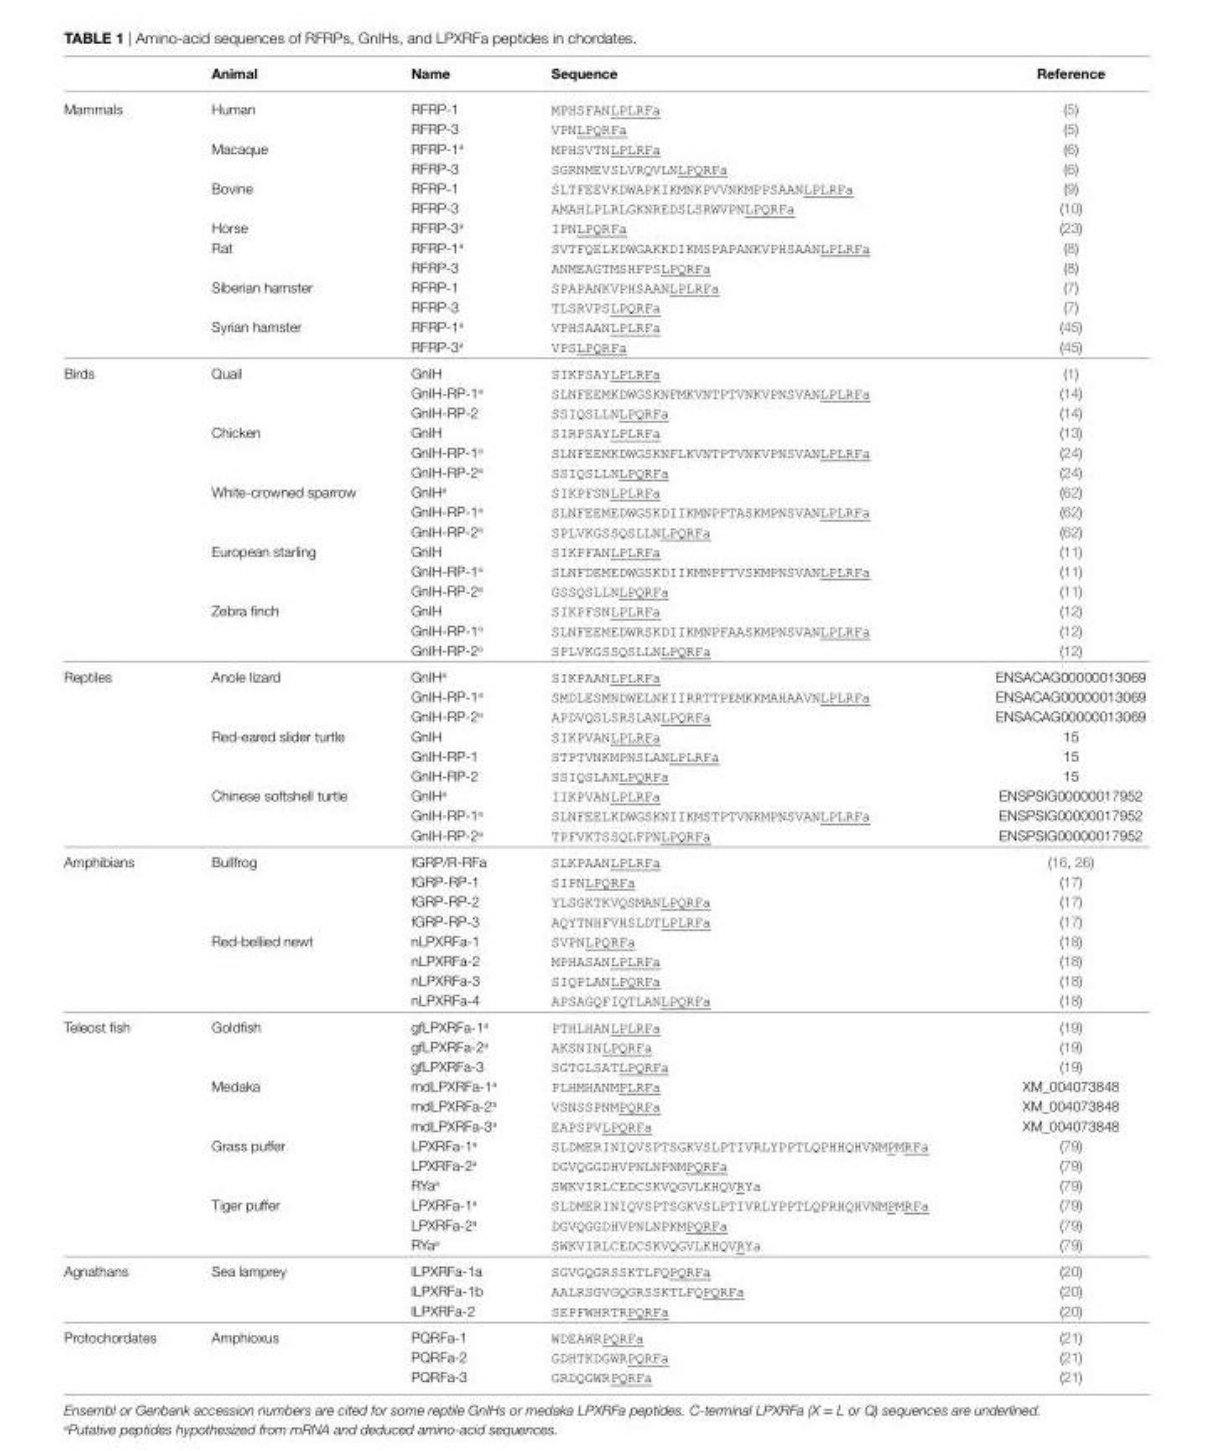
<table><thead><tr><td></td><td>Animal</td><td>Name</td><td>sequence</td><td>reference</td></tr></thead><tbody><tr><td rowspan="13">Mammals</td><td>Human</td><td>RFRP-1</td><td>MPHSFANLPLRFa</td><td>(5)</td></tr><tr><td></td><td>RFRP-3</td><td>VPNLPQRFa</td><td>(5)</td></tr><tr><td>Macaque</td><td>RFRP-1<sup>a</sup></td><td>MPHSVTNLPLRFa</td><td>(6)</td></tr><tr><td></td><td>RFRP-3</td><td>SGRNMEVSLVRQVLNLPQRFa</td><td>(6)</td></tr><tr><td>Bovine</td><td>RFRP-1</td><td>SLTFEEVKDWAPKIKMNKPVVNKMPPSAANLPLRFa</td><td>(9)</td></tr><tr><td></td><td>RFRP-3</td><td>AMAHLPLRLGKNREDSLSRWVPNLPQRFa</td><td>(10)</td></tr><tr><td>Horse</td><td>RFRP-3<sup>a</sup></td><td>IPNLPQRFa</td><td>(23)</td></tr><tr><td>Rat</td><td>RFRP-1<sup>a</sup></td><td>SVTFQELKDWGAKKDIKMSPAPANKVPHSAANLPLRFa</td><td>(8)</td></tr><tr><td></td><td>RFRP-3</td><td>ANMEAGTMSHFPSLPQRFa</td><td>(8)</td></tr><tr><td rowspan="2">Siberian hamster</td><td>RFRP-1</td><td>SPAPANKVPHSAANLPLRFa</td><td>(7)</td></tr><tr><td>RFRP-3</td><td>TLSRVPSLPQRFa</td><td>(7)</td></tr><tr><td rowspan="2">Syrian hamster</td><td>RFRP-1<sup>a</sup></td><td>VPHSAANLPLRFa</td><td>(45)</td></tr><tr><td>RFRP-3<sup>a</sup></td><td>VPSLPQRFa</td><td>(45)</td></tr><tr><td rowspan="15">Birds</td><td>Quail</td><td>GnIH</td><td>SIKPSAYLPLRFa</td><td>(1)</td></tr><tr><td></td><td>GnIH-RP-1<sup>a</sup></td><td>SLNFEEMKDWGSKNFMKVNTPTVNKVPNSVANLPLRFa</td><td>(14)</td></tr><tr><td></td><td>GnIH-RP-2</td><td>SSIQSLLNLPQRFa</td><td>(14)</td></tr><tr><td>Chicken</td><td>GnIH</td><td>SIRPSAYLPLRFa</td><td>(13)</td></tr><tr><td></td><td>GnIH-RP-1<sup>a</sup></td><td>SLNFEEMKDWGSKNFLKVNTPTVNKVPNSVANLPLRFa</td><td>(24)</td></tr><tr><td></td><td>GnIH-RP-2<sup>a</sup></td><td>SSIQSLLNLPQRFa</td><td>(24)</td></tr><tr><td rowspan="3">White-crowned sparrow</td><td>GnIH<sup>a</sup></td><td>SIKPFSNLPLRFa</td><td>(62)</td></tr><tr><td>GnIH-RP-1<sup>a</sup></td><td>SLNFEEMEDWGSKDIIKMNPFTASKMPNSVANLPLRFa</td><td>(62)</td></tr><tr><td>GnIH-RP-2<sup>a</sup></td><td>SPLVKGSSQSLLNLPQRFa</td><td>(62)</td></tr><tr><td rowspan="3">European starling</td><td>GnIH</td><td>SIKPFANLPLRFa</td><td>(11)</td></tr><tr><td>GnIH-RP-1<sup>a</sup></td><td>SLNFDEMEDWGSKDIIKMNPFTVSKMPNSVANLPLRFa</td><td>(11)</td></tr><tr><td>GnIH-RP-2<sup>a</sup></td><td>GSSQSLLNLPQRFa</td><td>(11)</td></tr><tr><td>Zebra finch</td><td>GnIH</td><td>SIKPFSNLPLRFa</td><td>(12)</td></tr><tr><td></td><td>GnIH-RP-1<sup>a</sup></td><td>SLNFEEMEDWRSKDIIKMNPFAASKMPNSVANLPLRFa</td><td>(12)</td></tr><tr><td></td><td>GnIH-RP-2<sup>a</sup></td><td>SPLVKGSSQSLLNLPQRFa</td><td>(12)</td></tr><tr><td rowspan="9">Reptiles</td><td>Anole lizard</td><td>GnIH<sup>a</sup></td><td>SIKPAANLPLRFa</td><td>ENSACAG00000013069</td></tr><tr><td></td><td>GnIH-RP-1<sup>a</sup></td><td>SMDLESMNDWELNKIIRRTTPEMKKMAHAAVNLPLRFa</td><td>ENSACAG00000013069</td></tr><tr><td></td><td>GnIH-RP-2<sup>a</sup></td><td>APDVQSLSRSLANLPQRFa</td><td>ENSACAG00000013069</td></tr><tr><td rowspan="3">Red-eared slider turtle</td><td>GnIH</td><td>SIKPVANLPLRFa</td><td>15</td></tr><tr><td>GnIH-RP-1</td><td>STPTVNKMPNSLANLPLRFa</td><td>15</td></tr><tr><td>GnIH-RP-2</td><td>SSIQSLANLPQRFa</td><td>15</td></tr><tr><td rowspan="3">Chinese softshell turtle</td><td>GnIH<sup>a</sup></td><td>IIKPVANLPLRFa</td><td>ENSPSIG00000017952</td></tr><tr><td>GnIH-RP-1<sup>a</sup></td><td>SLNFEELKDWGSKNIIKMSTPTVNKMPNSVANLPLRFa</td><td>ENSPSIG00000017952</td></tr><tr><td>GnIH-RP-2<sup>a</sup></td><td>TPFVKTSSQLFPNLPQRFa</td><td>ENSPSIG00000017952</td></tr><tr><td rowspan="8">Amphibians</td><td>Bullfrog</td><td>fGRP/R-RFa</td><td>SLKPAANLPLRFa</td><td>(16, 26)</td></tr><tr><td></td><td>fGRP-RP-1</td><td>SIPNLPQRFa</td><td>(17)</td></tr><tr><td></td><td>fGRP-RP-2</td><td>YLSGKTKVQSMANLPQRFa</td><td>(17)</td></tr><tr><td></td><td>fGRP-RP-3</td><td>AQYTNHFVHSLDTLPLRFa</td><td>(17)</td></tr><tr><td rowspan="4">Red-bellied newt</td><td>nLPXRFa-1</td><td>SVPNLPQRFa</td><td>(18)</td></tr><tr><td>nLPXRFa-2</td><td>MPHASANLPLRFa</td><td>(18)</td></tr><tr><td>nLPXRFa-3</td><td>SIQPLANLPQRFa</td><td>(18)</td></tr><tr><td>nLPXRFa-4</td><td>APSAGQFIQTLANLPQRFa</td><td>(18)</td></tr><tr><td rowspan="12">Teleost fish</td><td>Goldfish</td><td>gfLPXRFa-1<sup>a</sup></td><td>PTHLHANLPLRFa</td><td>(19)</td></tr><tr><td></td><td>gfLPXRFa-2<sup>a</sup></td><td>AKSNINLPQRFa</td><td>(19)</td></tr><tr><td></td><td>gfLPXRFa-3</td><td>SGTGLSATLPQRFa</td><td>(19)</td></tr><tr><td>Medaka</td><td>mdLPXRFa-1<sup>a</sup></td><td>PLHMHANMPLRFa</td><td>XM_004073848</td></tr><tr><td></td><td>mdLPXRFa-2<sup>a</sup></td><td>VSNSSPNMPQRFa</td><td>XM_004073848</td></tr><tr><td></td><td>mdLPXRFa-3<sup>a</sup></td><td>EAPSPVLPQRFa</td><td>XM_004073848</td></tr><tr><td>Grass puffer</td><td>LPXRFa-1<sup>a</sup></td><td>SLDMERINIQVSPTSGKVSLPTIVRLYPPTLQPHHQHVNMPMRFa</td><td>(79)</td></tr><tr><td></td><td>LPXRFa-2<sup>a</sup></td><td>DGVQGGDHVPNLNPNMPQRFa</td><td>(79)</td></tr><tr><td></td><td>RYa<sup>a</sup></td><td>SWKVIRLCEDCSKVQGVLKHQVRYa</td><td>(79)</td></tr><tr><td>Tiger puffer</td><td>LPXRFa-1<sup>a</sup></td><td>SLDMERINIQVSPTSGKVSLPTIVRLYPPTLQPRHQHVNMPMRFa</td><td>(79)</td></tr><tr><td></td><td>LPXRFa-2<sup>a</sup></td><td>DGVQGGDHVPNLNPKMPQRFa</td><td>(79)</td></tr><tr><td></td><td>RYa<sup>a</sup></td><td>SWKVIRLCEDCSKVQGVLKHQVRYa</td><td>(79)</td></tr><tr><td rowspan="3">Agnathans</td><td rowspan="3">Sea lamprey</td><td>lLPXRFa-1a</td><td>SGVGQGRSSKTLFQPQRFa</td><td>(20)</td></tr><tr><td>lLPXRFa-1b</td><td>AALRSGVGQGRSSKTLFQPQRFa</td><td>(20)</td></tr><tr><td>lLPXRFa-2</td><td>SEPFWHRTRPQRFa</td><td>(20)</td></tr><tr><td rowspan="3">Protochordates</td><td rowspan="3">Amphioxus</td><td>PQRFa-1</td><td>WDEAWRPQRFa</td><td>(21)</td></tr><tr><td>PQRFa-2</td><td>GDHTKDGWRPQRFa</td><td>(21)</td></tr><tr><td>PQRFa-3</td><td>GRDQGWRPQRFa</td><td>(21)</td></tr></tbody></table>